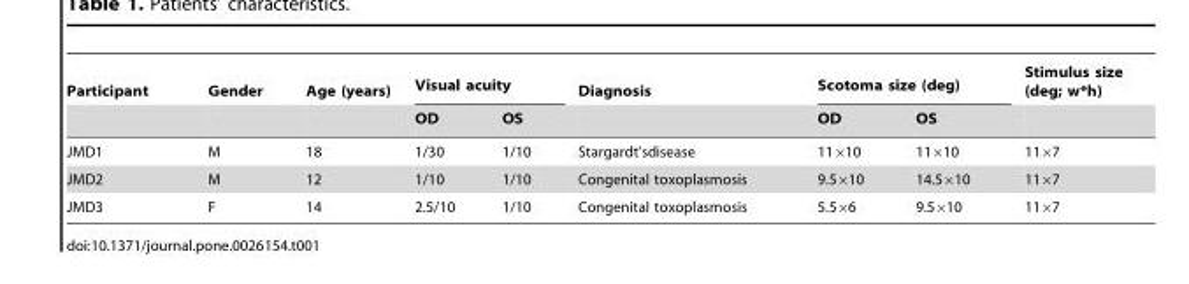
<table><thead><tr><td rowspan="2">Participant</td><td rowspan="2">Gender</td><td rowspan="2">Age (years)</td><td colspan="2">Visual acuity</td><td rowspan="2">Diagnosis</td><td colspan="2">Scotoma size (deg)</td><td rowspan="2">Stimulus size (deg; w*h)</td></tr><tr><td>OD</td><td>OS</td><td>OD</td><td>OS</td></tr></thead><tbody><tr><td>JMD1</td><td>M</td><td>18</td><td>1/30</td><td>1/10</td><td>Stargardt’sdisease</td><td>11×10</td><td>11×10</td><td>11×7</td></tr><tr><td>JMD2</td><td>M</td><td>12</td><td>1/10</td><td>1/10</td><td>Congenital toxoplasmosis</td><td>9.5×10</td><td>14.5×10</td><td>11×7</td></tr><tr><td>JMD3</td><td>F</td><td>14</td><td>2.5/10</td><td>1/10</td><td>Congenital toxoplasmosis</td><td>5.5×6</td><td>9.5×10</td><td>11×7</td></tr></tbody></table>